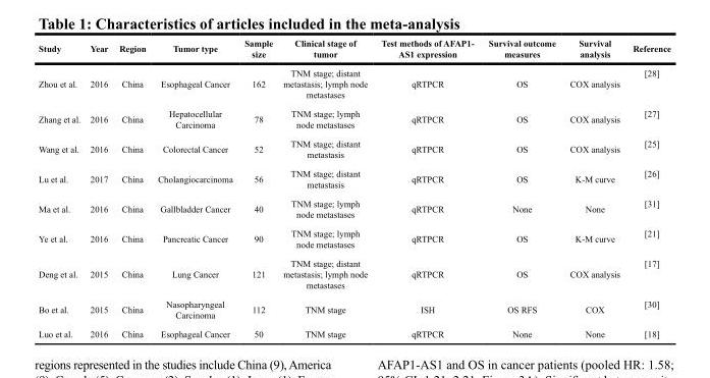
<table><thead><tr><td>Study</td><td>Year</td><td>Region</td><td>Tumor type</td><td>Sample size</td><td>Clinical stage of tumor</td><td>Test methods of AFAP1- AS1 expression</td><td>Survival outcome measures</td><td>Survival analysis</td><td>Reference</td></tr></thead><tbody><tr><td>Zhou et al.</td><td>2016</td><td>China</td><td>Esophageal Cancer</td><td>162</td><td>TNM stage; distant metastasis; lymph node metastases</td><td>qRTPCR</td><td>OS</td><td>COX analysis</td><td>[28]</td></tr><tr><td>Zhang et al.</td><td>2016</td><td>China</td><td>Hepatocellular Carcinoma</td><td>78</td><td>TNM stage; lymph node metastases</td><td>qRTPCR</td><td>OS</td><td>COX analysis</td><td>[27]</td></tr><tr><td>Wang et al.</td><td>2016</td><td>China</td><td>Colorectal Cancer</td><td>52</td><td>TNM stage; distant metastasis</td><td>qRTPCR</td><td>OS</td><td>COX analysis</td><td>[25]</td></tr><tr><td>Lu et al.</td><td>2017</td><td>China</td><td>Cholangiocarcinoma</td><td>56</td><td>TNM stage; distant metastasis</td><td>qRTPCR</td><td>OS</td><td>K-M curve</td><td>[26]</td></tr><tr><td>Ma et al.</td><td>2016</td><td>China</td><td>Gallbladder Cancer</td><td>40</td><td>TNM stage; lymph node metastases</td><td>qRTPCR</td><td>None</td><td>None</td><td>[31]</td></tr><tr><td>Ye et al.</td><td>2016</td><td>China</td><td>Pancreatic Cancer</td><td>90</td><td>TNM stage; lymph node metastases</td><td>qRTPCR</td><td>OS</td><td>K-M curve</td><td>[21]</td></tr><tr><td>Deng et al.</td><td>2015</td><td>China</td><td>Lung Cancer</td><td>121</td><td>TNM stage; distant metastasis; lymph node metastases</td><td>qRTPCR</td><td>OS</td><td>COX analysis</td><td>[17]</td></tr><tr><td>Bo et al.</td><td>2015</td><td>China</td><td>Nasopharyngeal Carcinoma</td><td>112</td><td>TNM stage</td><td>ISH</td><td>OS RFS</td><td>COX</td><td>[30]</td></tr><tr><td>Luo et al.</td><td>2016</td><td>China</td><td>Esophageal Cancer</td><td>50</td><td>TNM stage</td><td>qRTPCR</td><td>None</td><td>None</td><td>[18]</td></tr></tbody></table>